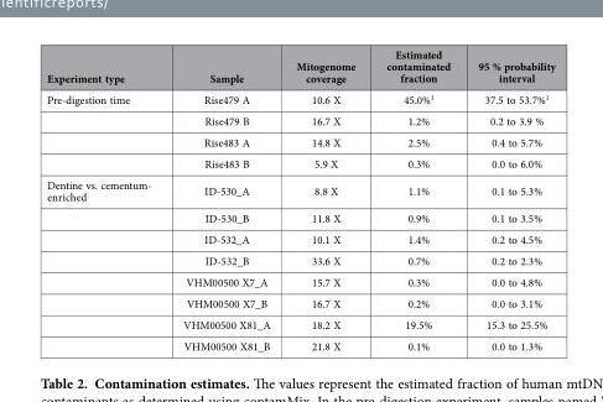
<table><thead><tr><td>Experiment type</td><td>Sample</td><td>Mitogenome coverage</td><td>Estimated contaminated fraction</td><td>95 % probability interval</td></tr></thead><tbody><tr><td rowspan="4">Pre-digestion time</td><td>Rise479 A</td><td>10.6 X</td><td>45.0%<sup>1</sup></td><td>37.5 to 53.7%<sup>1</sup></td></tr><tr><td>Rise479 B</td><td>16.7 X</td><td>1.2%</td><td>0.2 to 3.9 %</td></tr><tr><td>Rise483 A</td><td>14.8 X</td><td>2.5%</td><td>0.4 to 5.7%</td></tr><tr><td>Rise483 B</td><td>5.9 X</td><td>0.3%</td><td>0.0 to 6.0%</td></tr><tr><td rowspan="8">Dentine vs. cementum- enriched</td><td>ID-530_A</td><td>8.8 X</td><td>1.1%</td><td>0.1 to 5.3%</td></tr><tr><td>ID-530_B</td><td>11.8 X</td><td>0.9%</td><td>0.1 to 3.5%</td></tr><tr><td>ID-532_A</td><td>10.1 X</td><td>1.4%</td><td>0.2 to 4.5%</td></tr><tr><td>ID-532_B</td><td>33.6 X</td><td>0.7%</td><td>0.2 to 2.3%</td></tr><tr><td>VHM00500 X7_A</td><td>15.7 X</td><td>0.3%</td><td>0.0 to 4.8%</td></tr><tr><td>VHM00500 X7_B</td><td>16.7 X</td><td>0.2%</td><td>0.0 to 3.1%</td></tr><tr><td>VHM00500 X81_A</td><td>18.2 X</td><td>19.5%</td><td>15.3 to 25.5%</td></tr><tr><td>VHM00500 X81_B</td><td>21.8 X</td><td>0.1%</td><td>0.0 to 1.3%</td></tr></tbody></table>